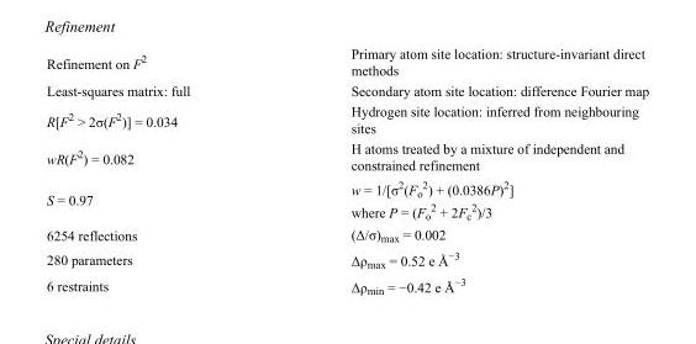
<table><tbody><tr><td>Refinement on F<sup>2</sup></td><td>Primary atom site location: structure-invariant direct methods</td></tr><tr><td>Least-squares matrix: full</td><td>Secondary atom site location: difference Fourier map</td></tr><tr><td>R[F<sup>2</sup> &gt; 2σ(F<sup>2</sup>)] = 0.034</td><td>Hydrogen site location: inferred from neighbouring sites</td></tr><tr><td>wR(F<sup>2</sup>) = 0.082</td><td>H atoms treated by a mixture of independent and constrained refinement</td></tr><tr><td>S = 0.97</td><td>w = 1/[σ<sup>2</sup>(F<sub>o</sub> <sup>2</sup>) + (0.0386P)<sup>2</sup>] where P = (F<sub>o</sub> <sup>2</sup> + 2F<sub>c</sub> <sup>2</sup>)/3</td></tr><tr><td>6254 reflections</td><td>(Δ/σ)<sub>max</sub> = 0.002</td></tr><tr><td>280 parameters</td><td>Δρ<sub>max</sub> = 0.52 e Å<sup>−3</sup></td></tr><tr><td>6 restraints</td><td>Δρ<sub>min</sub> = −0.42 e Å<sup>−3</sup></td></tr></tbody></table>